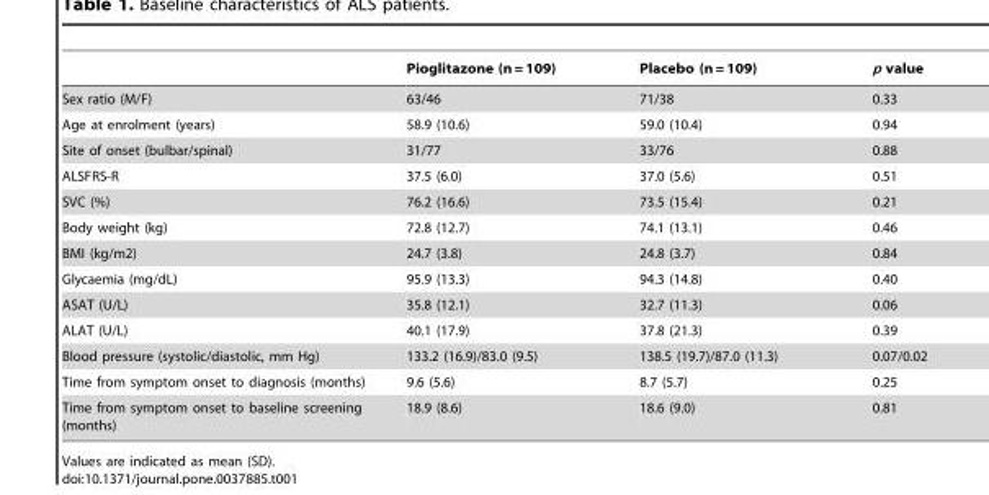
<table><thead><tr><td></td><td>Pioglitazone (n = 109)</td><td>Placebo (n = 109)</td><td>p value</td></tr></thead><tbody><tr><td>Sex ratio (M/F)</td><td>63/46</td><td>71/38</td><td>0.33</td></tr><tr><td>Age at enrolment (years)</td><td>58.9 (10.6)</td><td>59.0 (10.4)</td><td>0.94</td></tr><tr><td>Site of onset (bulbar/spinal)</td><td>31/77</td><td>33/76</td><td>0.88</td></tr><tr><td>ALSFRS-R</td><td>37.5 (6.0)</td><td>37.0 (5.6)</td><td>0.51</td></tr><tr><td>SVC (%)</td><td>76.2 (16.6)</td><td>73.5 (15.4)</td><td>0.21</td></tr><tr><td>Body weight (kg)</td><td>72.8 (12.7)</td><td>74.1 (13.1)</td><td>0.46</td></tr><tr><td>BMI (kg/m2)</td><td>24.7 (3.8)</td><td>24.8 (3.7)</td><td>0.84</td></tr><tr><td>Glycaemia (mg/dL)</td><td>95.9 (13.3)</td><td>94.3 (14.8)</td><td>0.40</td></tr><tr><td>ASAT (U/L)</td><td>35.8 (12.1)</td><td>32.7 (11.3)</td><td>0.06</td></tr><tr><td>ALAT (U/L)</td><td>40.1 (17.9)</td><td>37.8 (21.3)</td><td>0.39</td></tr><tr><td>Blood pressure (systolic/diastolic, mm Hg)</td><td>133.2 (16.9)/83.0 (9.5)</td><td>138.5 (19.7)/87.0 (11.3)</td><td>0.07/0.02</td></tr><tr><td>Time from symptom onset to diagnosis (months)</td><td>9.6 (5.6)</td><td>8.7 (5.7)</td><td>0.25</td></tr><tr><td>Time from symptom onset to baseline screening (months)</td><td>18.9 (8.6)</td><td>18.6 (9.0)</td><td>0.81</td></tr></tbody></table>